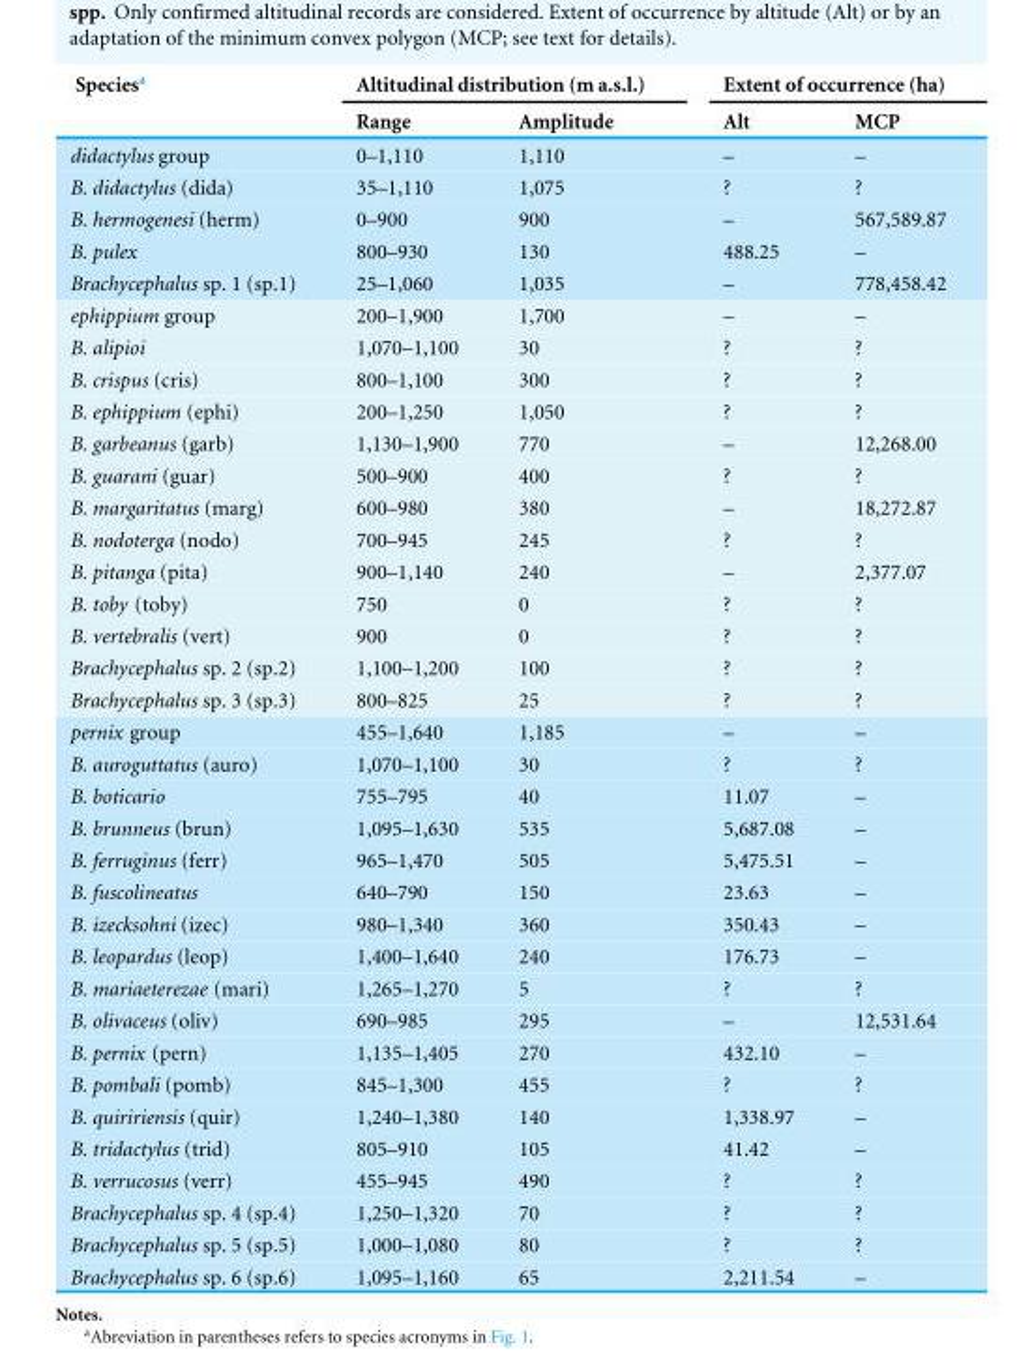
<table><thead><tr><td rowspan="2">Species<sup>a</sup></td><td colspan="2">Altitudinal distribution (m a.s.l.)</td><td colspan="2">Extent of occurrence (ha)</td></tr><tr><td>Range</td><td>Amplitude</td><td>Alt</td><td>MCP</td></tr></thead><tbody><tr><td>didactylus group</td><td>0–1,110</td><td>1,110</td><td>–</td><td>–</td></tr><tr><td>B. didactylus (dida)</td><td>35–1,110</td><td>1,075</td><td>?</td><td>?</td></tr><tr><td>B. hermogenesi (herm)</td><td>0–900</td><td>900</td><td>–</td><td>567,589.87</td></tr><tr><td>B. pulex</td><td>800–930</td><td>130</td><td>488.25</td><td>–</td></tr><tr><td>Brachycephalus sp. 1 (sp.1)</td><td>25–1,060</td><td>1,035</td><td>–</td><td>778,458.42</td></tr><tr><td>ephippium group</td><td>200–1,900</td><td>1,700</td><td>–</td><td>–</td></tr><tr><td>B. alipioi</td><td>1,070–1,100</td><td>30</td><td>?</td><td>?</td></tr><tr><td>B. crispus (cris)</td><td>800–1,100</td><td>300</td><td>?</td><td>?</td></tr><tr><td>B. ephippium (ephi)</td><td>200–1,250</td><td>1,050</td><td>?</td><td>?</td></tr><tr><td>B. garbeanus (garb)</td><td>1,130–1,900</td><td>770</td><td>–</td><td>12,268.00</td></tr><tr><td>B. guarani (guar)</td><td>500–900</td><td>400</td><td>?</td><td>?</td></tr><tr><td>B. margaritatus (marg)</td><td>600–980</td><td>380</td><td>–</td><td>18,272.87</td></tr><tr><td>B. nodoterga (nodo)</td><td>700–945</td><td>245</td><td>?</td><td>?</td></tr><tr><td>B. pitanga (pita)</td><td>900–1,140</td><td>240</td><td>–</td><td>2,377.07</td></tr><tr><td>B. toby (toby)</td><td>750</td><td>0</td><td>?</td><td>?</td></tr><tr><td>B. vertebralis (vert)</td><td>900</td><td>0</td><td>?</td><td>?</td></tr><tr><td>Brachycephalus sp. 2 (sp.2)</td><td>1,100–1,200</td><td>100</td><td>?</td><td>?</td></tr><tr><td>Brachycephalus sp. 3 (sp.3)</td><td>800–825</td><td>25</td><td>?</td><td>?</td></tr><tr><td>pernix group</td><td>455–1,640</td><td>1,185</td><td>–</td><td>–</td></tr><tr><td>B. auroguttatus (auro)</td><td>1,070–1,100</td><td>30</td><td>?</td><td>?</td></tr><tr><td>B. boticario</td><td>755–795</td><td>40</td><td>11.07</td><td>–</td></tr><tr><td>B. brunneus (brun)</td><td>1,095–1,630</td><td>535</td><td>5,687.08</td><td>–</td></tr><tr><td>B. ferruginus (ferr)</td><td>965–1,470</td><td>505</td><td>5,475.51</td><td>–</td></tr><tr><td>B. fuscolineatus</td><td>640–790</td><td>150</td><td>23.63</td><td>–</td></tr><tr><td>B. izecksohni (izec)</td><td>980–1,340</td><td>360</td><td>350.43</td><td>–</td></tr><tr><td>B. leopardus (leop)</td><td>1,400–1,640</td><td>240</td><td>176.73</td><td>–</td></tr><tr><td>B. mariaeterezae (mari)</td><td>1,265–1,270</td><td>5</td><td>?</td><td>?</td></tr><tr><td>B. olivaceus (oliv)</td><td>690–985</td><td>295</td><td>–</td><td>12,531.64</td></tr><tr><td>B. pernix (pern)</td><td>1,135–1,405</td><td>270</td><td>432.10</td><td>–</td></tr><tr><td>B. pombali (pomb)</td><td>845–1,300</td><td>455</td><td>?</td><td>?</td></tr><tr><td>B. quiririensis (quir)</td><td>1,240–1,380</td><td>140</td><td>1,338.97</td><td>–</td></tr><tr><td>B. tridactylus (trid)</td><td>805–910</td><td>105</td><td>41.42</td><td>–</td></tr><tr><td>B. verrucosus (verr)</td><td>455–945</td><td>490</td><td>?</td><td>?</td></tr><tr><td>Brachycephalus sp. 4 (sp.4)</td><td>1,250–1,320</td><td>70</td><td>?</td><td>?</td></tr><tr><td>Brachycephalus sp. 5 (sp.5)</td><td>1,000–1,080</td><td>80</td><td>?</td><td>?</td></tr><tr><td>Brachycephalus sp. 6 (sp.6)</td><td>1,095–1,160</td><td>65</td><td>2,211.54</td><td>–</td></tr></tbody></table>